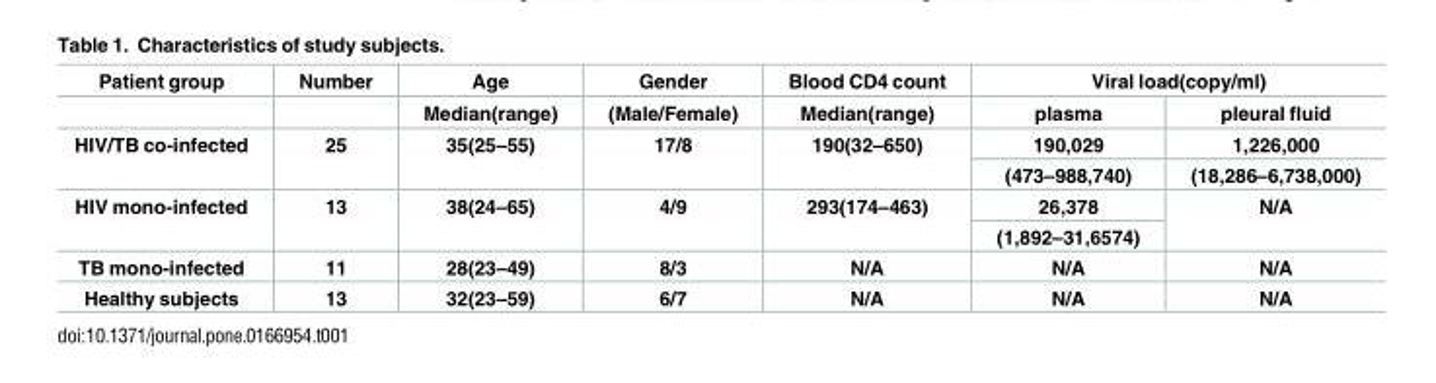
<table><thead><tr><td rowspan="2">Patient group</td><td rowspan="2">Number</td><td rowspan="2">Age Median(range)</td><td rowspan="2">Gender (Male/Female)</td><td rowspan="2">Blood CD4 count Median(range)</td><td colspan="2">Viral load(copy/ml)</td></tr><tr><td>plasma</td><td>pleural fluid</td></tr></thead><tbody><tr><td rowspan="2">HIV/TB co-infected</td><td rowspan="2">25</td><td rowspan="2">35(25–55)</td><td rowspan="2">17/8</td><td rowspan="2">190(32–650)</td><td>190,029</td><td>1,226,000</td></tr><tr><td>(473–988,740)</td><td>(18,286–6,738,000)</td></tr><tr><td rowspan="2">HIV mono-infected</td><td rowspan="2">13</td><td rowspan="2">38(24–65)</td><td rowspan="2">4/9</td><td rowspan="2">293(174–463)</td><td>26,378</td><td rowspan="2">N/A</td></tr><tr><td>(1,892–31,6574)</td></tr><tr><td>TB mono-infected</td><td>11</td><td>28(23–49)</td><td>8/3</td><td>N/A</td><td>N/A</td><td>N/A</td></tr><tr><td>Healthy subjects</td><td>13</td><td>32(23–59)</td><td>6/7</td><td>N/A</td><td>N/A</td><td>N/A</td></tr></tbody></table>